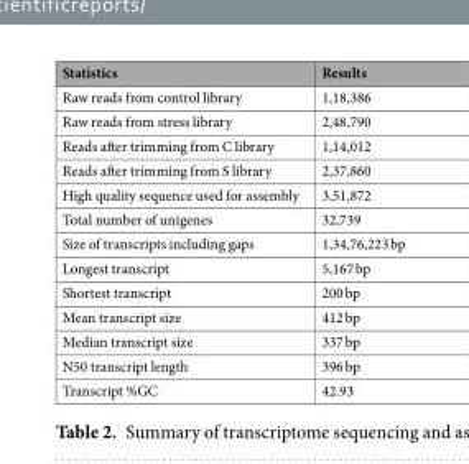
<table><thead><tr><td>Statistics</td><td>Results</td></tr></thead><tbody><tr><td>Raw reads from control library</td><td>1,18,386</td></tr><tr><td>Raw reads from stress library</td><td>2,48,790</td></tr><tr><td>Reads after trimming from C library</td><td>1,14,012</td></tr><tr><td>Reads after trimming from S library</td><td>2,37,860</td></tr><tr><td>High quality sequence used for assembly</td><td>3,51,872</td></tr><tr><td>Total number of unigenes</td><td>32,739</td></tr><tr><td>Size of transcripts including gaps</td><td>1,34,76,223 bp</td></tr><tr><td>Longest transcript</td><td>5,167 bp</td></tr><tr><td>Shortest transcript</td><td>200 bp</td></tr><tr><td>Mean transcript size</td><td>412 bp</td></tr><tr><td>Median transcript size</td><td>337 bp</td></tr><tr><td>N50 transcript length</td><td>396 bp</td></tr><tr><td>Transcript %GC</td><td>42.93</td></tr></tbody></table>